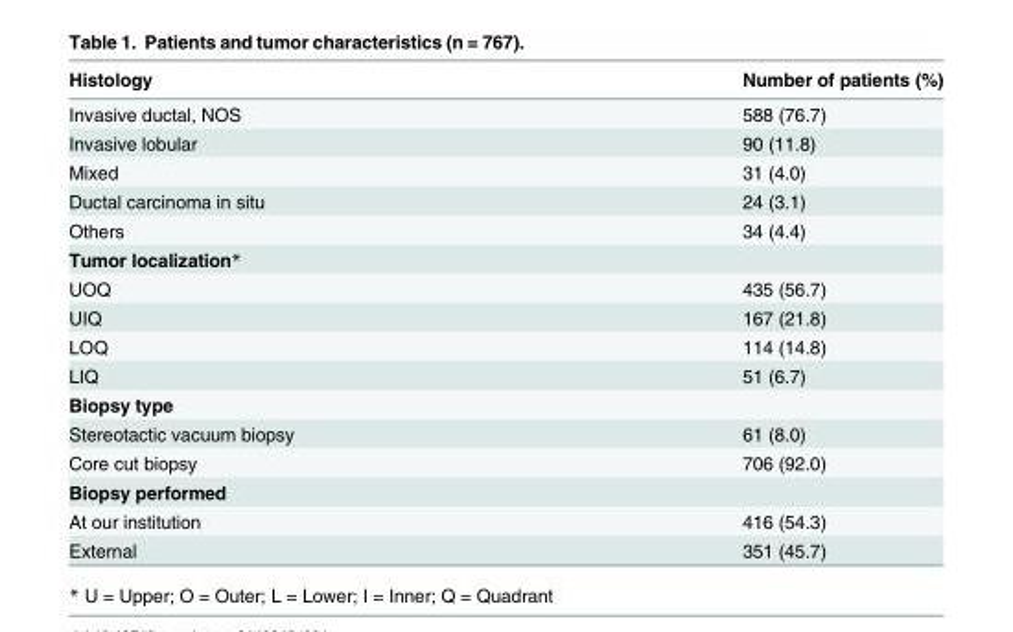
<table><thead><tr><td>Histology</td><td>Number of patients (%)</td></tr></thead><tbody><tr><td>Invasive ductal, NOS</td><td>588 (76.7)</td></tr><tr><td>Invasive lobular</td><td>90 (11.8)</td></tr><tr><td>Mixed</td><td>31 (4.0)</td></tr><tr><td>Ductal carcinoma in situ</td><td>24 (3.1)</td></tr><tr><td>Others</td><td>34 (4.4)</td></tr><tr><td colspan="2">Tumor localization*</td></tr><tr><td>UOQ</td><td>435 (56.7)</td></tr><tr><td>UIQ</td><td>167 (21.8)</td></tr><tr><td>LOQ</td><td>114 (14.8)</td></tr><tr><td>LIQ</td><td>51 (6.7)</td></tr><tr><td colspan="2">Biopsy type</td></tr><tr><td>Stereotactic vacuum biopsy</td><td>61 (8.0)</td></tr><tr><td>Core cut biopsy</td><td>706 (92.0)</td></tr><tr><td colspan="2">Biopsy performed</td></tr><tr><td>At our institution</td><td>416 (54.3)</td></tr><tr><td>External</td><td>351 (45.7)</td></tr></tbody></table>